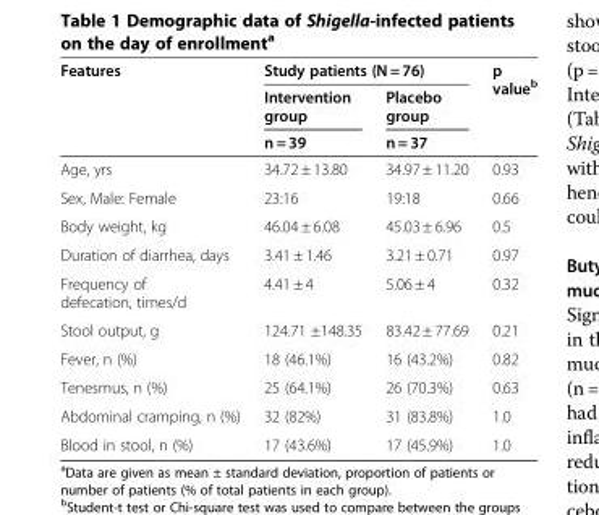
<table><thead><tr><td rowspan="3">Features</td><td colspan="2">Study patients (N = 76)</td><td rowspan="3">p value<sup>b</sup></td></tr><tr><td rowspan="2">Intervention group n = 39</td><td rowspan="2">Placebo group n = 37</td></tr><tr></tr></thead><tbody><tr><td>Age, yrs</td><td>34.72 ± 13.80</td><td>34.97 ± 11.20</td><td>0.93</td></tr><tr><td>Sex, Male: Female</td><td>23:16</td><td>19:18</td><td>0.66</td></tr><tr><td>Body weight, kg</td><td>46.04 ± 6.08</td><td>45.03 ± 6.96</td><td>0.5</td></tr><tr><td>Duration of diarrhea, days</td><td>3.41 ± 1.46</td><td>3.21 ± 0.71</td><td>0.97</td></tr><tr><td>Frequency of defecation, times/d</td><td>4.41 ± 4</td><td>5.06 ± 4</td><td>0.32</td></tr><tr><td>Stool output, g</td><td>124.71 ±148.35</td><td>83.42 ± 77.69</td><td>0.21</td></tr><tr><td>Fever, n (%)</td><td>18 (46.1%)</td><td>16 (43.2%)</td><td>0.82</td></tr><tr><td>Tenesmus, n (%)</td><td>25 (64.1%)</td><td>26 (70.3%)</td><td>0.63</td></tr><tr><td>Abdominal cramping, n (%)</td><td>32 (82%)</td><td>31 (83.8%)</td><td>1.0</td></tr><tr><td>Blood in stool, n (%)</td><td>17 (43.6%)</td><td>17 (45.9%)</td><td>1.0</td></tr></tbody></table>